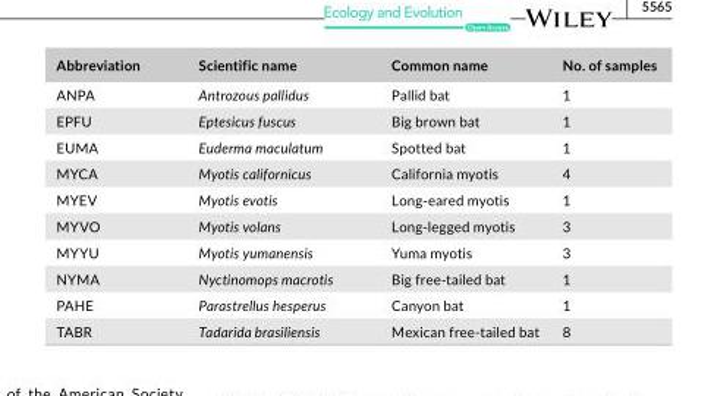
<table><thead><tr><td>Abbreviation</td><td>Scientific name</td><td>Common name</td><td>No. of samples</td></tr></thead><tbody><tr><td>ANPA</td><td>Antrozous pallidus</td><td>Pallid bat</td><td>1</td></tr><tr><td>EPFU</td><td>Eptesicus fuscus</td><td>Big brown bat</td><td>1</td></tr><tr><td>EUMA</td><td>Euderma maculatum</td><td>Spotted bat</td><td>1</td></tr><tr><td>MYCA</td><td>Myotis californicus</td><td>California myotis</td><td>4</td></tr><tr><td>MYEV</td><td>Myotis evotis</td><td>Long- eared myotis</td><td>1</td></tr><tr><td>MYVO</td><td>Myotis volans</td><td>Long- legged myotis</td><td>3</td></tr><tr><td>MYYU</td><td>Myotis yumanensis</td><td>Yuma myotis</td><td>3</td></tr><tr><td>NYMA</td><td>Nyctinomops macrotis</td><td>Big free- tailed bat</td><td>1</td></tr><tr><td>PAHE</td><td>Parastrellus hesperus</td><td>Canyon bat</td><td>1</td></tr><tr><td>TABR</td><td>Tadarida brasiliensis</td><td>Mexican free- tailed bat</td><td>8</td></tr></tbody></table>